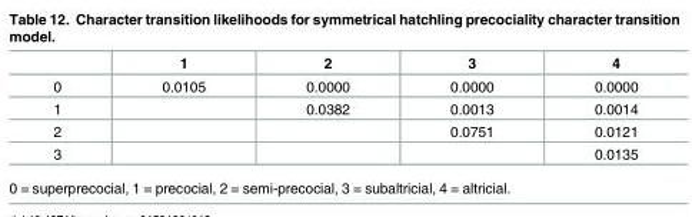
<table><thead><tr><td></td><td>1</td><td>2</td><td>3</td><td>4</td></tr></thead><tbody><tr><td>0</td><td>0.0105</td><td>0.0000</td><td>0.0000</td><td>0.0000</td></tr><tr><td>1</td><td></td><td>0.0382</td><td>0.0013</td><td>0.0014</td></tr><tr><td>2</td><td></td><td></td><td>0.0751</td><td>0.0121</td></tr><tr><td>3</td><td></td><td></td><td></td><td>0.0135</td></tr></tbody></table>